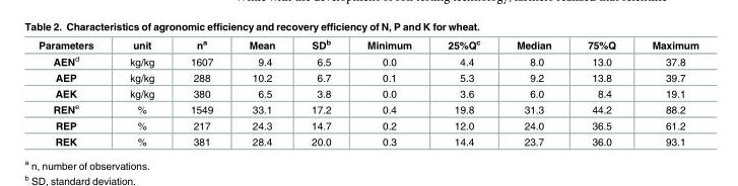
<table><thead><tr><td>Parameters</td><td>unit</td><td>n<sup>a</sup></td><td>Mean</td><td>SD<sup>b</sup></td><td>Minimum</td><td>25%Q<sup>c</sup></td><td>Median</td><td>75%Q</td><td>Maximum</td></tr></thead><tbody><tr><td>AEN<sup>d</sup></td><td>kg/kg</td><td>1607</td><td>9.4</td><td>6.5</td><td>0.0</td><td>4.4</td><td>8.0</td><td>13.0</td><td>37.8</td></tr><tr><td>AEP</td><td>kg/kg</td><td>288</td><td>10.2</td><td>6.7</td><td>0.1</td><td>5.3</td><td>9.2</td><td>13.8</td><td>39.7</td></tr><tr><td>AEK</td><td>kg/kg</td><td>380</td><td>6.5</td><td>3.8</td><td>0.0</td><td>3.6</td><td>6.0</td><td>8.4</td><td>19.1</td></tr><tr><td>REN<sup>e</sup></td><td>%</td><td>1549</td><td>33.1</td><td>17.2</td><td>0.4</td><td>19.8</td><td>31.3</td><td>44.2</td><td>88.2</td></tr><tr><td>REP</td><td>%</td><td>217</td><td>24.3</td><td>14.7</td><td>0.2</td><td>12.0</td><td>24.0</td><td>36.5</td><td>61.2</td></tr><tr><td>REK</td><td>%</td><td>381</td><td>28.4</td><td>20.0</td><td>0.3</td><td>14.4</td><td>23.7</td><td>36.0</td><td>93.1</td></tr></tbody></table>